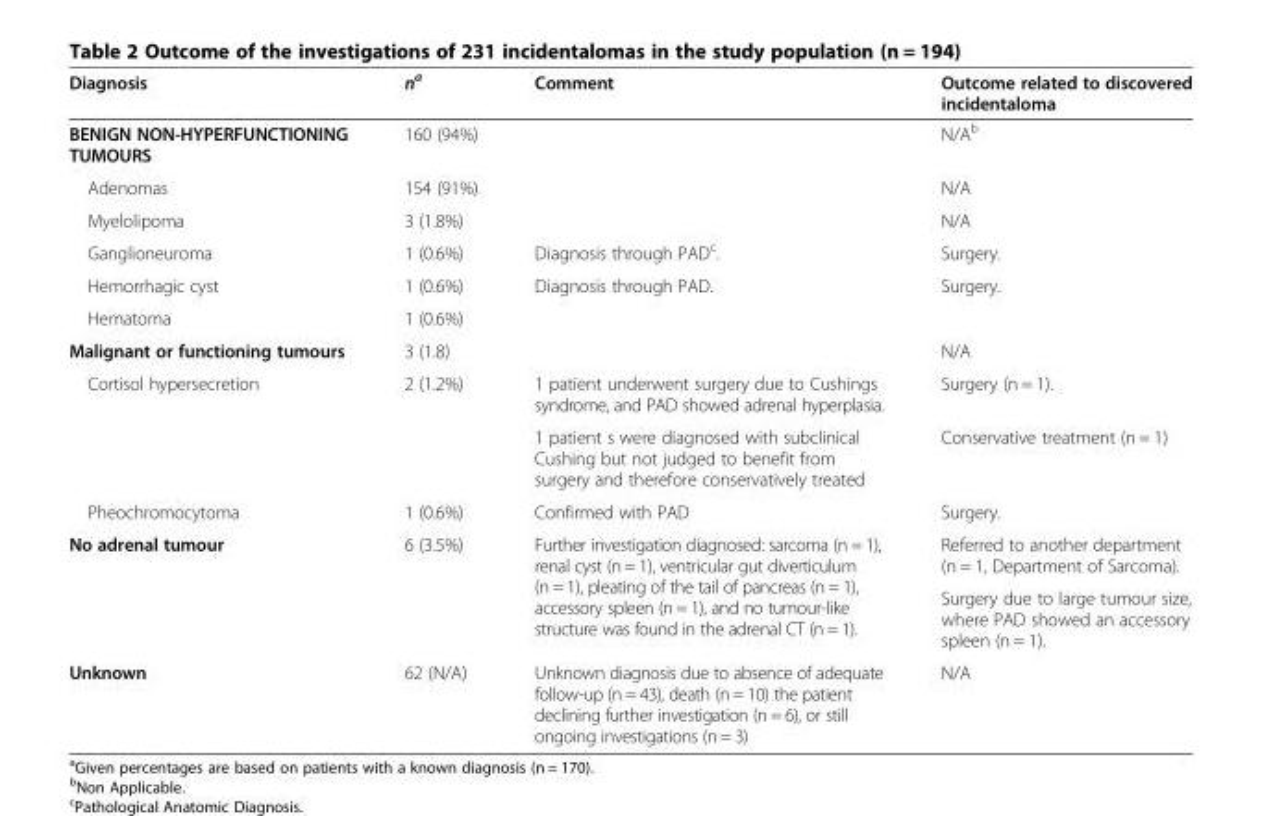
<table><thead><tr><td>Diagnosis</td><td>n<sup>a</sup></td><td>Comment</td><td>Outcome related to discovered incidentaloma</td></tr></thead><tbody><tr><td>BENIGN NON-HYPERFUNCTIONING TUMOURS</td><td>160 (94%)</td><td></td><td>N/A<sup>b</sup></td></tr><tr><td>Adenomas</td><td>154 (91%)</td><td></td><td>N/A</td></tr><tr><td>Myelolipoma</td><td>3 (1.8%)</td><td></td><td>N/A</td></tr><tr><td>Ganglioneuroma</td><td>1 (0.6%)</td><td>Diagnosis through PAD<sup>c</sup>.</td><td>Surgery.</td></tr><tr><td>Hemorrhagic cyst</td><td>1 (0.6%)</td><td>Diagnosis through PAD.</td><td>Surgery.</td></tr><tr><td>Hematoma</td><td>1 (0.6%)</td><td></td><td></td></tr><tr><td>Malignant or functioning tumours</td><td>3 (1.8)</td><td></td><td>N/A</td></tr><tr><td rowspan="2">Cortisol hypersecretion</td><td rowspan="2">2 (1.2%)</td><td>1 patient underwent surgery due to Cushings syndrome, and PAD showed adrenal hyperplasia.</td><td>Surgery (n = 1).</td></tr><tr><td>1 patient s were diagnosed with subclinical Cushing but not judged to benefit from surgery and therefore conservatively treated</td><td>Conservative treatment (n = 1)</td></tr><tr><td>Pheochromocytoma</td><td>1 (0.6%)</td><td>Confirmed with PAD</td><td>Surgery.</td></tr><tr><td rowspan="2">No adrenal tumour</td><td rowspan="2">6 (3.5%)</td><td rowspan="2">Further investigation diagnosed: sarcoma (n = 1), renal cyst (n = 1), ventricular gut diverticulum (n = 1), pleating of the tail of pancreas (n = 1), accessory spleen (n = 1), and no tumour-like structure was found in the adrenal CT (n = 1).</td><td>Referred to another department (n = 1, Department of Sarcoma).</td></tr><tr><td>Surgery due to large tumour size, where PAD showed an accessory spleen (n = 1).</td></tr><tr><td>Unknown</td><td>62 (N/A)</td><td>Unknown diagnosis due to absence of adequate follow-up (n = 43), death (n = 10) the patient declining further investigation (n = 6), or still ongoing investigations (n = 3)</td><td>N/A</td></tr></tbody></table>